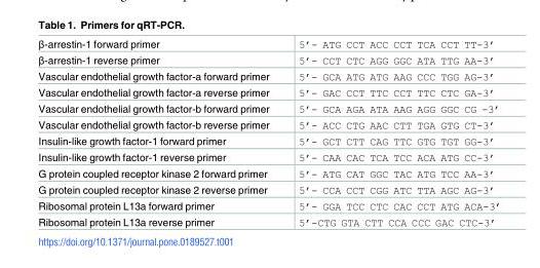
<table><tbody><tr><td>β-arrestin-1 forward primer</td><td>5’- ATG CCT ACC CCT TCA CCT TT-3’</td></tr><tr><td>β-arrestin-1 reverse primer</td><td>5’- CCT CTC AGG GGC ATA TTG AA-3’</td></tr><tr><td>Vascular endothelial growth factor-a forward primer</td><td>5’- GCA ATG ATG AAG CCC TGG AG-3’</td></tr><tr><td>Vascular endothelial growth factor-a reverse primer</td><td>5’- GAC CCT TTC CCT TTC CTC GA-3’</td></tr><tr><td>Vascular endothelial growth factor-b forward primer</td><td>5’- GCA AGA ATA AAG AGG GGC CG -3’</td></tr><tr><td>Vascular endothelial growth factor-b reverse primer</td><td>5’- ACC CTG AAC CTT TGA GTG CT-3’</td></tr><tr><td>Insulin-like growth factor-1 forward primer</td><td>5’- GCT CTT CAG TTC GTG TGT GG-3’</td></tr><tr><td>Insulin-like growth factor-1 reverse primer</td><td>5’- CAA CAC TCA TCC ACA ATG CC-3’</td></tr><tr><td>G protein coupled receptor kinase 2 forward primer</td><td>5’- ATG CAT GGC TAC ATG TCC AA-3’</td></tr><tr><td>G protein coupled receptor kinase 2 reverse primer</td><td>5’- CCA CCT CGG ATC TTA AGC AG-3’</td></tr><tr><td>Ribosomal protein L13a forward primer</td><td>5’- GGA TCC CTC CAC CCT ATG ACA-3’</td></tr><tr><td>Ribosomal protein L13a reverse primer</td><td>5’-CTG GTA CTT CCA CCC GAC CTC-3’</td></tr></tbody></table>